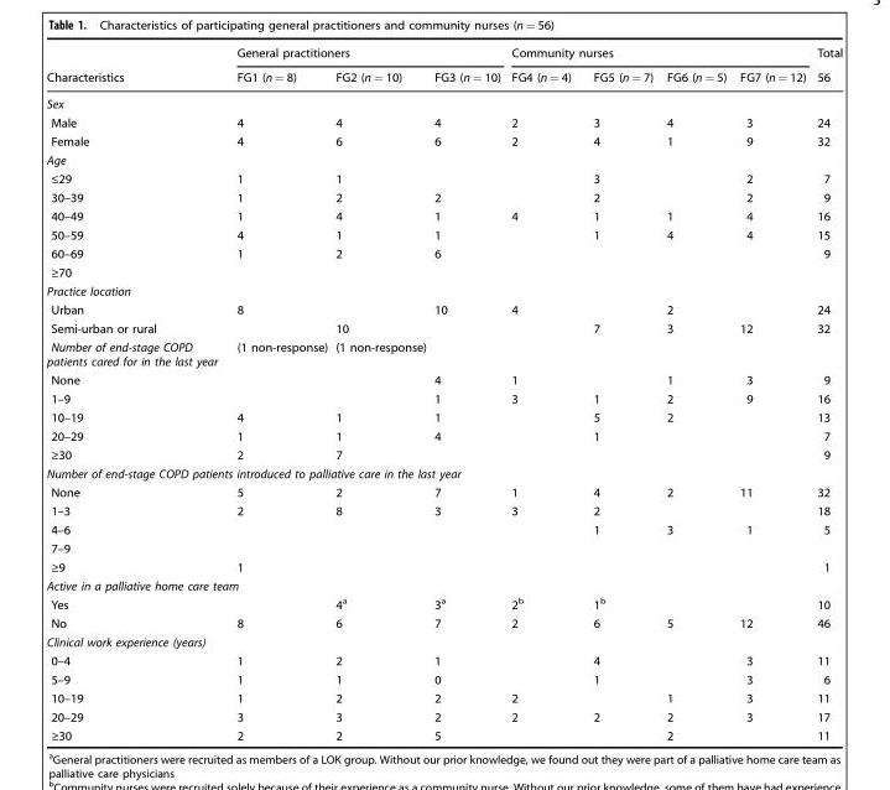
<table><thead><tr><td rowspan="2">Characteristics</td><td colspan="3">General practitioners</td><td colspan="4">Community nurses</td><td rowspan="2">Total 56</td></tr><tr><td>FG1 (n = 8)</td><td>FG2 (n = 10)</td><td>FG3 (n = 10)</td><td>FG4 (n = 4)</td><td>FG5 (n = 7)</td><td>FG6 (n = 5)</td><td>FG7 (n = 12)</td></tr></thead><tbody><tr><td colspan="9">Sex</td></tr><tr><td>Male</td><td>4</td><td>4</td><td>4</td><td>2</td><td>3</td><td>4</td><td>3</td><td>24</td></tr><tr><td>Female</td><td>4</td><td>6</td><td>6</td><td>2</td><td>4</td><td>1</td><td>9</td><td>32</td></tr><tr><td colspan="9">Age</td></tr><tr><td>≤29</td><td>1</td><td>1</td><td></td><td></td><td>3</td><td></td><td>2</td><td>7</td></tr><tr><td>30–39</td><td>1</td><td>2</td><td>2</td><td></td><td>2</td><td></td><td>2</td><td>9</td></tr><tr><td>40–49</td><td>1</td><td>4</td><td>1</td><td>4</td><td>1</td><td>1</td><td>4</td><td>16</td></tr><tr><td>50–59</td><td>4</td><td>1</td><td>1</td><td></td><td>1</td><td>4</td><td>4</td><td>15</td></tr><tr><td>60–69</td><td>1</td><td>2</td><td>6</td><td></td><td></td><td></td><td></td><td>9</td></tr><tr><td colspan="9">≥70</td></tr><tr><td colspan="9">Practice location</td></tr><tr><td>Urban</td><td>8</td><td></td><td>10</td><td>4</td><td></td><td>2</td><td></td><td>24</td></tr><tr><td>Semi-urban or rural</td><td></td><td>10</td><td></td><td></td><td>7</td><td>3</td><td>12</td><td>32</td></tr><tr><td>Number of end-stage COPD patients cared for in the last year</td><td>(1 non-response)</td><td>(1 non-response)</td><td></td><td></td><td></td><td></td><td></td><td></td></tr><tr><td>None</td><td></td><td></td><td>4</td><td>1</td><td></td><td>1</td><td>3</td><td>9</td></tr><tr><td>1–9</td><td></td><td></td><td>1</td><td>3</td><td>1</td><td>2</td><td>9</td><td>16</td></tr><tr><td>10–19</td><td>4</td><td>1</td><td>1</td><td></td><td>5</td><td>2</td><td></td><td>13</td></tr><tr><td>20–29</td><td>1</td><td>1</td><td>4</td><td></td><td>1</td><td></td><td></td><td>7</td></tr><tr><td>≥30</td><td>2</td><td>7</td><td></td><td></td><td></td><td></td><td></td><td>9</td></tr><tr><td colspan="9">Number of end-stage COPD patients introduced to palliative care in the last year</td></tr><tr><td>None</td><td>5</td><td>2</td><td>7</td><td>1</td><td>4</td><td>2</td><td>11</td><td>32</td></tr><tr><td>1–3</td><td>2</td><td>8</td><td>3</td><td>3</td><td>2</td><td></td><td></td><td>18</td></tr><tr><td>4–6</td><td></td><td></td><td></td><td></td><td>1</td><td>3</td><td>1</td><td>5</td></tr><tr><td colspan="9">7–9</td></tr><tr><td>≥9</td><td>1</td><td></td><td></td><td></td><td></td><td></td><td></td><td>1</td></tr><tr><td colspan="9">Active in a palliative home care team</td></tr><tr><td>Yes</td><td></td><td>4<sup>a</sup></td><td>3<sup>a</sup></td><td>2<sup>b</sup></td><td>1<sup>b</sup></td><td></td><td></td><td>10</td></tr><tr><td>No</td><td>8</td><td>6</td><td>7</td><td>2</td><td>6</td><td>5</td><td>12</td><td>46</td></tr><tr><td colspan="9">Clinical work experience (years)</td></tr><tr><td>0–4</td><td>1</td><td>2</td><td>1</td><td></td><td>4</td><td></td><td>3</td><td>11</td></tr><tr><td>5–9</td><td>1</td><td>1</td><td>0</td><td></td><td>1</td><td></td><td>3</td><td>6</td></tr><tr><td>10–19</td><td>1</td><td>2</td><td>2</td><td>2</td><td></td><td>1</td><td>3</td><td>11</td></tr><tr><td>20–29</td><td>3</td><td>3</td><td>2</td><td>2</td><td>2</td><td>2</td><td>3</td><td>17</td></tr><tr><td>≥30</td><td>2</td><td>2</td><td>5</td><td></td><td></td><td>2</td><td></td><td>11</td></tr></tbody></table>